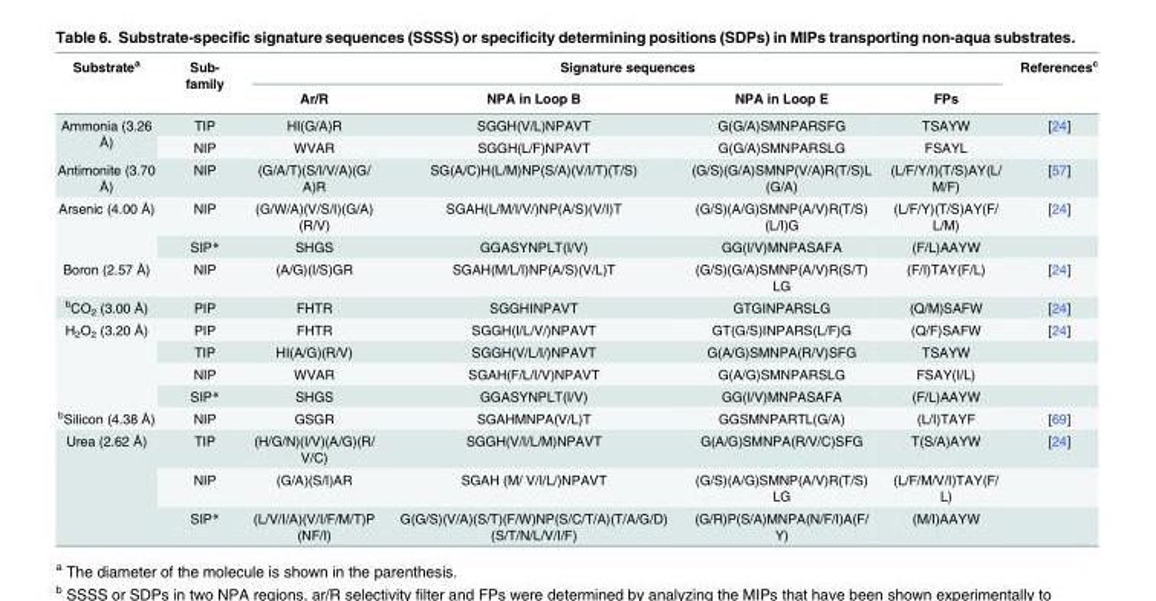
<table><thead><tr><td rowspan="2">Substrate<sup>a</sup></td><td rowspan="2">Sub- family</td><td colspan="4">Signature sequences</td><td rowspan="2">References<sup>c</sup></td></tr><tr><td>Ar/R</td><td>NPA in Loop B</td><td>NPA in Loop E</td><td>FPs</td></tr></thead><tbody><tr><td rowspan="2">Ammonia (3.26 Å)</td><td>TIP</td><td>HI(G/A)R</td><td>SGGH(V/L)NPAVT</td><td>G(G/A)SMNPARSFG</td><td>TSAYW</td><td>[24]</td></tr><tr><td>NIP</td><td>WVAR</td><td>SGGH(L/F)NPAVT</td><td>G(G/A)SMNPARSLG</td><td>FSAYL</td><td></td></tr><tr><td>Antimonite (3.70 Å)</td><td>NIP</td><td>(G/A/T)(S/I/V/A)(G/ A)R</td><td>SG(A/C)H(L/M)NP(S/A)(V/I/T)(T/S)</td><td>(G/S)(G/A)SMNP(V/A)R(T/S)L (G/A)</td><td>(L/F/Y/I)(T/S)AY(L/ M/F)</td><td>[57]</td></tr><tr><td rowspan="2">Arsenic (4.00 Å)</td><td>NIP</td><td>(G/W/A)(V/S/I)(G/A) (R/V)</td><td>SGAH(L/M/I/V/)NP(A/S)(V/I)T</td><td>(G/S)(A/G)SMNP(A/V)R(T/S) (L/I)G</td><td>(L/F/Y)(T/S)AY(F/ L/M)</td><td>[24]</td></tr><tr><td>SIP*</td><td>SHGS</td><td>GGASYNPLT(I/V)</td><td>GG(I/V)MNPASAFA</td><td>(F/L)AAYW</td><td></td></tr><tr><td>Boron (2.57 Å)</td><td>NIP</td><td>(A/G)(I/S)GR</td><td>SGAH(M/L/I)NP(A/S)(V/L)T</td><td>(G/S)(G/A)SMNP(A/V)R(S/T) LG</td><td>(F/I)TAY(F/L)</td><td>[24]</td></tr><tr><td><sup>b</sup>CO<sub>2</sub> (3.00 Å)</td><td>PIP</td><td>FHTR</td><td>SGGHINPAVT</td><td>GTGINPARSLG</td><td>(Q/M)SAFW</td><td>[24]</td></tr><tr><td rowspan="4">H<sub>2</sub>O<sub>2</sub> (3.20 Å)</td><td>PIP</td><td>FHTR</td><td>SGGH(I/L/V/)NPAVT</td><td>GT(G/S)INPARS(L/F)G</td><td>(Q/F)SAFW</td><td>[24]</td></tr><tr><td>TIP</td><td>HI(A/G)(R/V)</td><td>SGGH(V/L/I/)NPAVT</td><td>G(A/G)SMNPA(R/V)SFG</td><td>TSAYW</td><td></td></tr><tr><td>NIP</td><td>WVAR</td><td>SGAH(F/L/I/V)NPAVT</td><td>G(A/G)SMNPARSLG</td><td>FSAY(I/L)</td><td></td></tr><tr><td>SIP*</td><td>SHGS</td><td>GGASYNPLT(I/V)</td><td>GG(I/V)MNPASAFA</td><td>(F/L)AAYW</td><td></td></tr><tr><td><sup>b</sup>Silicon (4.38 Å)</td><td>NIP</td><td>GSGR</td><td>SGAHMNPA(V/L)T</td><td>GGSMNPARTL(G/A)</td><td>(L/I)TAYF</td><td>[69]</td></tr><tr><td rowspan="3">Urea (2.62 Å)</td><td>TIP</td><td>(H/G/N)(I/V)(A/G)(R/ V/C)</td><td>SGGH(V/I/L/M)NPAVT</td><td>G(A/G)SMNPA(R/V/C)SFG</td><td>T(S/A)AYW</td><td>[24]</td></tr><tr><td>NIP</td><td>(G/A)(S/I)AR</td><td>SGAH (M/ V/I/L/)NPAVT</td><td>(G/S)(A/G)SMNP(A/V)R(T/S) LG</td><td>(L/F/M/V/I)TAY(F/ L)</td><td></td></tr><tr><td>SIP*</td><td>(L/V/I/A)(V/I/F/M/T)P (NF/I)</td><td>G(G/S)(V/A)(S/T)(F/W)NP(S/C/T/A)(T/A/G/D) (S/T/N/L/V/I/F)</td><td>(G/R)P(S/A)MNPA(N/F/I)A(F/ Y)</td><td>(M/I)AAYW</td><td></td></tr></tbody></table>